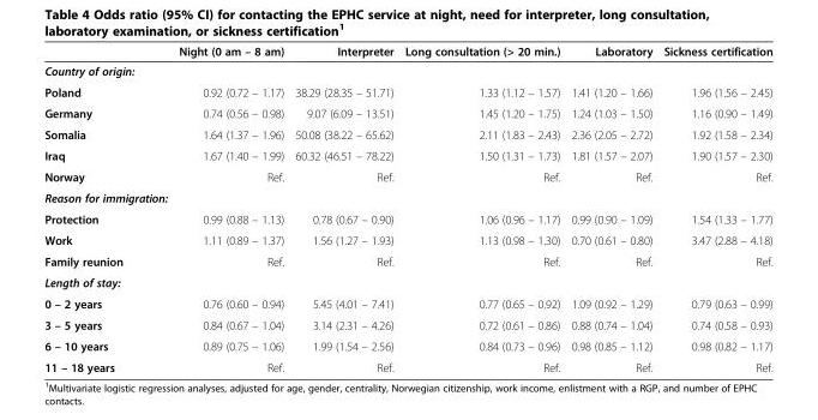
<table><thead><tr><td></td><td>Night (0 am – 8 am)</td><td>Interpreter</td><td>Long consultation (&gt; 20 min.)</td><td>Laboratory</td><td>Sickness certification</td></tr></thead><tbody><tr><td colspan="6">Country of origin:</td></tr><tr><td>Poland</td><td>0.92 (0.72 – 1.17)</td><td>38.29 (28.35 – 51.71)</td><td>1.33 (1.12 – 1.57)</td><td>1.41 (1.20 – 1.66)</td><td>1.96 (1.56 – 2.45)</td></tr><tr><td>Germany</td><td>0.74 (0.56 – 0.98)</td><td>9.07 (6.09 – 13.51)</td><td>1.45 (1.20 – 1.75)</td><td>1.24 (1.03 – 1.50)</td><td>1.16 (0.90 – 1.49)</td></tr><tr><td>Somalia</td><td>1.64 (1.37 – 1.96)</td><td>50.08 (38.22 – 65.62)</td><td>2.11 (1.83 – 2.43)</td><td>2.36 (2.05 – 2.72)</td><td>1.92 (1.58 – 2.34)</td></tr><tr><td>Iraq</td><td>1.67 (1.40 – 1.99)</td><td>60.32 (46.51 – 78.22)</td><td>1.50 (1.31 – 1.73)</td><td>1.81 (1.57 – 2.07)</td><td>1.90 (1.57 – 2.30)</td></tr><tr><td>Norway</td><td>Ref.</td><td>Ref.</td><td>Ref.</td><td>Ref.</td><td>Ref.</td></tr><tr><td colspan="6">Reason for immigration:</td></tr><tr><td>Protection</td><td>0.99 (0.88 – 1.13)</td><td>0.78 (0.67 – 0.90)</td><td>1.06 (0.96 – 1.17)</td><td>0.99 (0.90 – 1.09)</td><td>1.54 (1.33 – 1.77)</td></tr><tr><td>Work</td><td>1.11 (0.89 – 1.37)</td><td>1.56 (1.27 – 1.93)</td><td>1.13 (0.98 – 1.30)</td><td>0.70 (0.61 – 0.80)</td><td>3.47 (2.88 – 4.18)</td></tr><tr><td>Family reunion</td><td>Ref.</td><td>Ref.</td><td>Ref.</td><td>Ref.</td><td>Ref.</td></tr><tr><td colspan="6">Length of stay:</td></tr><tr><td>0 – 2 years</td><td>0.76 (0.60 – 0.94)</td><td>5.45 (4.01 – 7.41)</td><td>0.77 (0.65 – 0.92)</td><td>1.09 (0.92 – 1.29)</td><td>0.79 (0.63 – 0.99)</td></tr><tr><td>3 – 5 years</td><td>0.84 (0.67 – 1.04)</td><td>3.14 (2.31 – 4.26)</td><td>0.72 (0.61 – 0.86)</td><td>0.88 (0.74 – 1.04)</td><td>0.74 (0.58 – 0.93)</td></tr><tr><td>6 – 10 years</td><td>0.89 (0.75 – 1.06)</td><td>1.99 (1.54 – 2.56)</td><td>0.84 (0.73 – 0.96)</td><td>0.98 (0.85 – 1.12)</td><td>0.98 (0.82 – 1.17)</td></tr><tr><td>11 – 18 years</td><td>Ref.</td><td>Ref.</td><td>Ref.</td><td>Ref.</td><td>Ref.</td></tr></tbody></table>